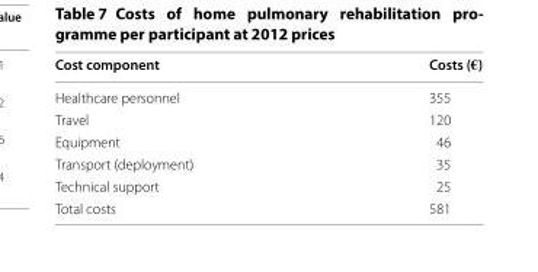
<table><thead><tr><td>Cost component</td><td>Costs (€)</td></tr></thead><tbody><tr><td>Healthcare personnel</td><td>355</td></tr><tr><td>Travel</td><td>120</td></tr><tr><td>Equipment</td><td>46</td></tr><tr><td>Transport (deployment)</td><td>35</td></tr><tr><td>Technical support</td><td>25</td></tr><tr><td>Total costs</td><td>581</td></tr></tbody></table>